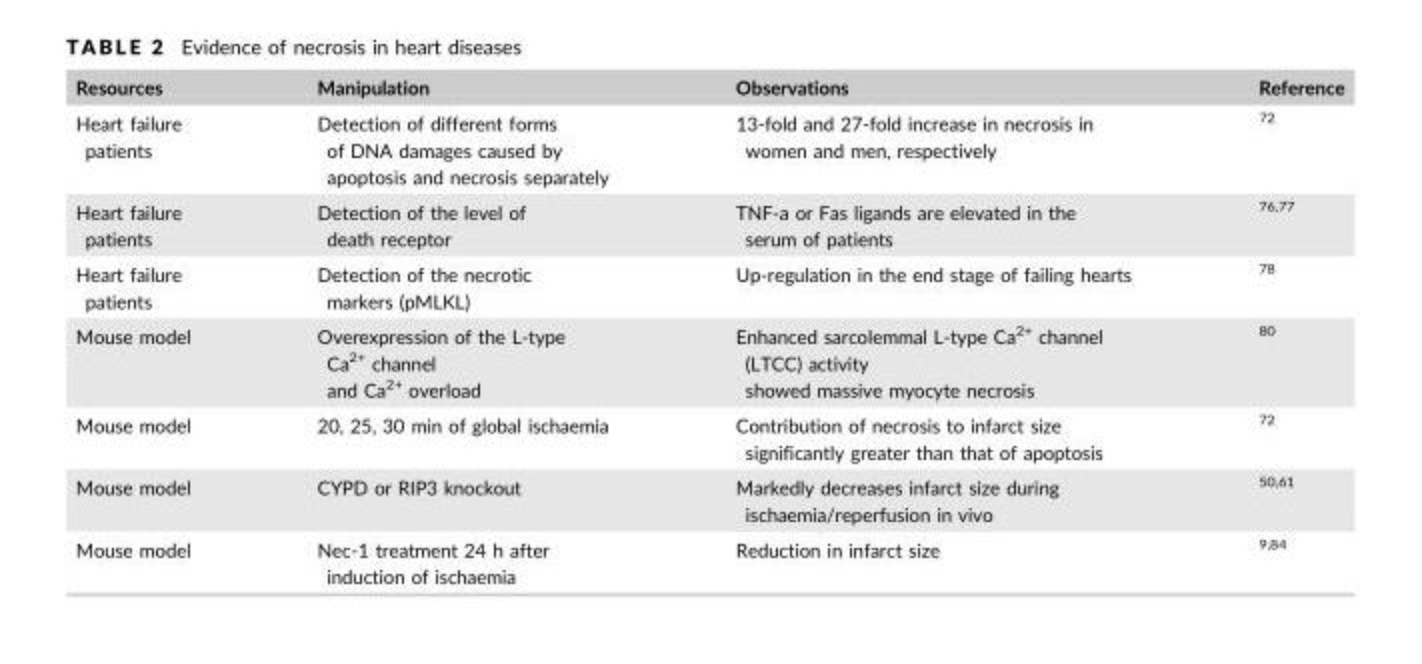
<table><thead><tr><td>Resources</td><td>Manipulation</td><td>Observations</td><td>Reference</td></tr></thead><tbody><tr><td>Heart failure patients</td><td>Detection of different forms of DNA damages caused by apoptosis and necrosis separately</td><td>13-fold and 27-fold increase in necrosis in women and men, respectively</td><td>72</td></tr><tr><td>Heart failure patients</td><td>Detection of the level of death receptor</td><td>TNF-a or Fas ligands are elevated in the serum of patients</td><td>76,77</td></tr><tr><td>Heart failure patients</td><td>Detection of the necrotic markers (pMLKL)</td><td>Up-regulation in the end stage of failing hearts</td><td>78</td></tr><tr><td>Mouse model</td><td>Overexpression of the L-type Ca<sup>2+</sup> channel and Ca<sup>2+</sup> overload</td><td>Enhanced sarcolemmal L-type Ca<sup>2+</sup> channel (LTCC) activity showed massive myocyte necrosis</td><td><sup>80</sup></td></tr><tr><td>Mouse model</td><td>20, 25, 30 min of global ischaemia</td><td>Contribution of necrosis to infarct size significantly greater than that of apoptosis</td><td>72</td></tr><tr><td>Mouse model</td><td>CYPD or RIP3 knockout</td><td>Markedly decreases infarct size during ischaemia/reperfusion in vivo</td><td><sup>50,61</sup></td></tr><tr><td>Mouse model</td><td>Nec-1 treatment 24 h after induction of ischaemia</td><td>Reduction in infarct size</td><td><sup>9,84</sup></td></tr></tbody></table>